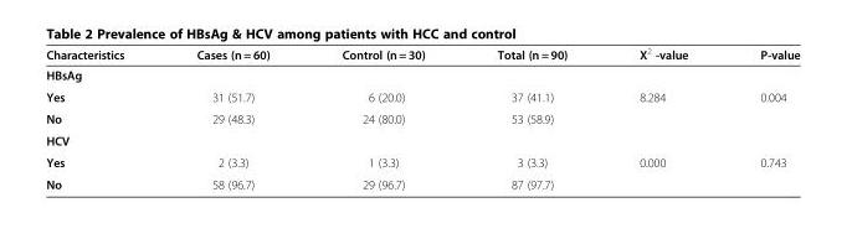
<table><thead><tr><td>Characteristics</td><td>Cases (n = 60)</td><td>Control (n = 30)</td><td>Total (n = 90)</td><td>X<sup>2</sup> -value</td><td>P-value</td></tr></thead><tbody><tr><td colspan="6">HBsAg</td></tr><tr><td>Yes</td><td>31 (51.7)</td><td>6 (20.0)</td><td>37 (41.1)</td><td>8.284</td><td>0.004</td></tr><tr><td>No</td><td>29 (48.3)</td><td>24 (80.0)</td><td>53 (58.9)</td><td></td><td></td></tr><tr><td colspan="6">HCV</td></tr><tr><td>Yes</td><td>2 (3.3)</td><td>1 (3.3)</td><td>3 (3.3)</td><td>0.000</td><td>0.743</td></tr><tr><td>No</td><td>58 (96.7)</td><td>29 (96.7)</td><td>87 (97.7)</td><td></td><td></td></tr></tbody></table>